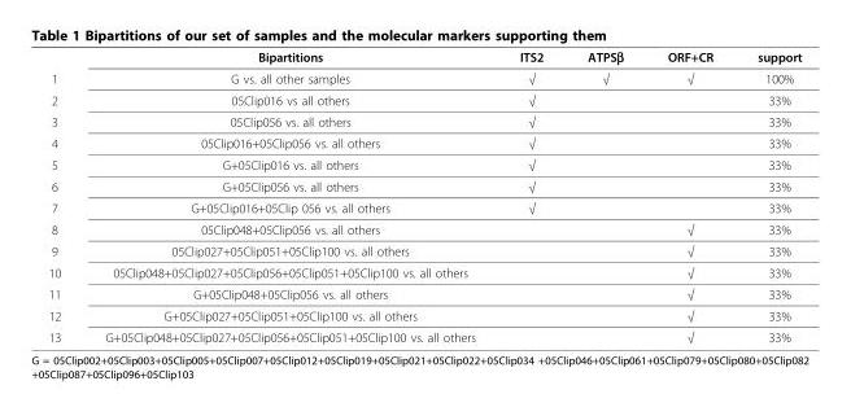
<table><thead><tr><td></td><td>Bipartitions</td><td>ITS2</td><td>ATPSβ</td><td>ORF+CR</td><td>support</td></tr></thead><tbody><tr><td>1</td><td>G vs. all other samples</td><td>√</td><td>√</td><td>√</td><td>100%</td></tr><tr><td>2</td><td>05Clip016 vs all others</td><td>√</td><td></td><td></td><td>33%</td></tr><tr><td>3</td><td>05Clip056 vs. all others</td><td>√</td><td></td><td></td><td>33%</td></tr><tr><td>4</td><td>05Clip016+05Clip056 vs. all others</td><td>√</td><td></td><td></td><td>33%</td></tr><tr><td>5</td><td>G+05Clip016 vs. all others</td><td>√</td><td></td><td></td><td>33%</td></tr><tr><td>6</td><td>G+05Clip056 vs. all others</td><td>√</td><td></td><td></td><td>33%</td></tr><tr><td>7</td><td>G+05Clip016+05Clip 056 vs. all others</td><td>√</td><td></td><td></td><td>33%</td></tr><tr><td>8</td><td>05Clip048+05Clip056 vs. all others</td><td></td><td></td><td>√</td><td>33%</td></tr><tr><td>9</td><td>05Clip027+05Clip051+05Clip100 vs. all others</td><td></td><td></td><td>√</td><td>33%</td></tr><tr><td>10</td><td>05Clip048+05Clip027+05Clip056+05Clip051+05Clip100 vs. all others</td><td></td><td></td><td>√</td><td>33%</td></tr><tr><td>11</td><td>G+05Clip048+05Clip056 vs. all others</td><td></td><td></td><td>√</td><td>33%</td></tr><tr><td>12</td><td>G+05Clip027+05Clip051+05Clip100 vs. all others</td><td></td><td></td><td>√</td><td>33%</td></tr><tr><td>13</td><td>G+05Clip048+05Clip027+05Clip056+05Clip051+05Clip100 vs. all others</td><td></td><td></td><td>√</td><td>33%</td></tr></tbody></table>